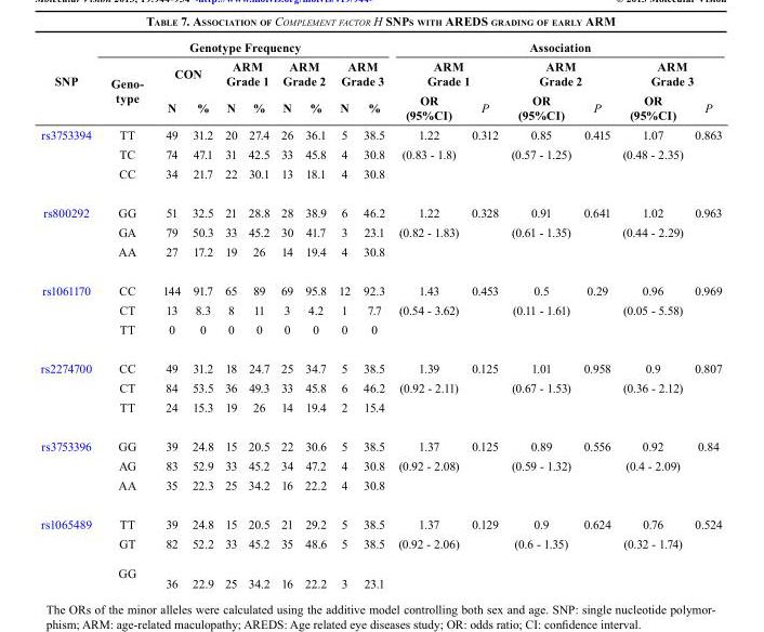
<table><thead><tr><td rowspan="3">SNP</td><td colspan="9">Genotype Frequency</td><td colspan="6">Association</td></tr><tr><td rowspan="2">Geno- type</td><td colspan="2">CON</td><td colspan="2">ARM Grade 1</td><td colspan="2">ARM Grade 2</td><td colspan="2">ARM Grade 3</td><td colspan="2">ARM Grade 1</td><td colspan="2">ARM Grade 2</td><td colspan="2">ARM Grade 3</td></tr><tr><td>N</td><td>%</td><td>N</td><td>%</td><td>N</td><td>%</td><td>N</td><td>%</td><td>OR (95%CI)</td><td>P</td><td>OR (95%CI)</td><td>P</td><td>OR (95%CI)</td><td>P</td></tr></thead><tbody><tr><td rowspan="3">rs3753394</td><td>TT</td><td>49</td><td>31.2</td><td>20</td><td>27.4</td><td>26</td><td>36.1</td><td>5</td><td>38.5</td><td>1.22</td><td>0.312</td><td>0.85</td><td>0.415</td><td>1.07</td><td>0.863</td></tr><tr><td>TC</td><td>74</td><td>47.1</td><td>31</td><td>42.5</td><td>33</td><td>45.8</td><td>4</td><td>30.8</td><td>(0.83 - 1.8)</td><td></td><td>(0.57 - 1.25)</td><td></td><td>(0.48 - 2.35)</td><td></td></tr><tr><td>CC</td><td>34</td><td>21.7</td><td>22</td><td>30.1</td><td>13</td><td>18.1</td><td>4</td><td>30.8</td><td></td><td></td><td></td><td></td><td></td><td></td></tr><tr><td rowspan="3">rs800292</td><td>GG</td><td>51</td><td>32.5</td><td>21</td><td>28.8</td><td>28</td><td>38.9</td><td>6</td><td>46.2</td><td>1.22</td><td>0.328</td><td>0.91</td><td>0.641</td><td>1.02</td><td>0.963</td></tr><tr><td>GA</td><td>79</td><td>50.3</td><td>33</td><td>45.2</td><td>30</td><td>41.7</td><td>3</td><td>23.1</td><td>(0.82 - 1.83)</td><td></td><td>(0.61 - 1.35)</td><td></td><td>(0.44 - 2.29)</td><td></td></tr><tr><td>AA</td><td>27</td><td>17.2</td><td>19</td><td>26</td><td>14</td><td>19.4</td><td>4</td><td>30.8</td><td></td><td></td><td></td><td></td><td></td><td></td></tr><tr><td rowspan="3">rs1061170</td><td>CC</td><td>144</td><td>91.7</td><td>65</td><td>89</td><td>69</td><td>95.8</td><td>12</td><td>92.3</td><td>1.43</td><td>0.453</td><td>0.5</td><td>0.29</td><td>0.96</td><td>0.969</td></tr><tr><td>CT</td><td>13</td><td>8.3</td><td>8</td><td>11</td><td>3</td><td>4.2</td><td>1</td><td>7.7</td><td>(0.54 - 3.62)</td><td></td><td>(0.11 - 1.61)</td><td></td><td>(0.05 - 5.58)</td><td></td></tr><tr><td>TT</td><td>0</td><td>0</td><td>0</td><td>0</td><td>0</td><td>0</td><td>0</td><td>0</td><td></td><td></td><td></td><td></td><td></td><td></td></tr><tr><td rowspan="3">rs2274700</td><td>CC</td><td>49</td><td>31.2</td><td>18</td><td>24.7</td><td>25</td><td>34.7</td><td>5</td><td>38.5</td><td>1.39</td><td>0.125</td><td>1.01</td><td>0.958</td><td>0.9</td><td>0.807</td></tr><tr><td>CT</td><td>84</td><td>53.5</td><td>36</td><td>49.3</td><td>33</td><td>45.8</td><td>6</td><td>46.2</td><td>(0.92 - 2.11)</td><td></td><td>(0.67 - 1.53)</td><td></td><td>(0.36 - 2.12)</td><td></td></tr><tr><td>TT</td><td>24</td><td>15.3</td><td>19</td><td>26</td><td>14</td><td>19.4</td><td>2</td><td>15.4</td><td></td><td></td><td></td><td></td><td></td><td></td></tr><tr><td rowspan="3">rs3753396</td><td>GG</td><td>39</td><td>24.8</td><td>15</td><td>20.5</td><td>22</td><td>30.6</td><td>5</td><td>38.5</td><td>1.37</td><td>0.125</td><td>0.89</td><td>0.556</td><td>0.92</td><td>0.84</td></tr><tr><td>AG</td><td>83</td><td>52.9</td><td>33</td><td>45.2</td><td>34</td><td>47.2</td><td>4</td><td>30.8</td><td>(0.92 - 2.08)</td><td></td><td>(0.59 - 1.32)</td><td></td><td>(0.4 - 2.09)</td><td></td></tr><tr><td>AA</td><td>35</td><td>22.3</td><td>25</td><td>34.2</td><td>16</td><td>22.2</td><td>4</td><td>30.8</td><td></td><td></td><td></td><td></td><td></td><td></td></tr><tr><td rowspan="3">rs1065489</td><td>TT</td><td>39</td><td>24.8</td><td>15</td><td>20.5</td><td>21</td><td>29.2</td><td>5</td><td>38.5</td><td>1.37</td><td>0.129</td><td>0.9</td><td>0.624</td><td>0.76</td><td>0.524</td></tr><tr><td>GT</td><td>82</td><td>52.2</td><td>33</td><td>45.2</td><td>35</td><td>48.6</td><td>5</td><td>38.5</td><td>(0.92 - 2.06)</td><td></td><td>(0.6 - 1.35)</td><td></td><td>(0.32 - 1.74)</td><td></td></tr><tr><td>GG</td><td>36</td><td>22.9</td><td>25</td><td>34.2</td><td>16</td><td>22.2</td><td>3</td><td>23.1</td><td></td><td></td><td></td><td></td><td></td><td></td></tr></tbody></table>